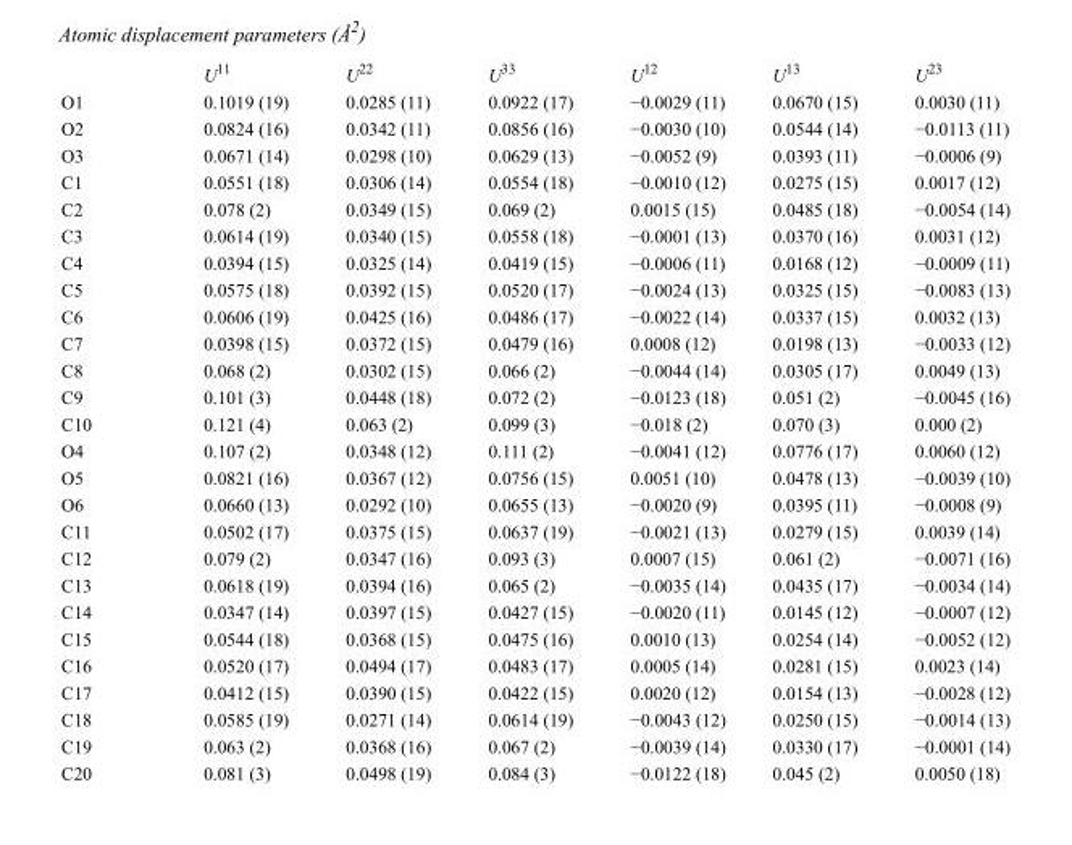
<table><thead><tr><td></td><td>U<sup>11</sup></td><td>U<sup>22</sup></td><td>U<sup>33</sup></td><td>U<sup>12</sup></td><td>U<sup>13</sup></td><td>U<sup>23</sup></td></tr></thead><tbody><tr><td>O1</td><td>0.1019 (19)</td><td>0.0285 (11)</td><td>0.0922 (17)</td><td>−0.0029 (11)</td><td>0.0670 (15)</td><td>0.0030 (11)</td></tr><tr><td>O2</td><td>0.0824 (16)</td><td>0.0342 (11)</td><td>0.0856 (16)</td><td>−0.0030 (10)</td><td>0.0544 (14)</td><td>−0.0113 (11)</td></tr><tr><td>O3</td><td>0.0671 (14)</td><td>0.0298 (10)</td><td>0.0629 (13)</td><td>−0.0052 (9)</td><td>0.0393 (11)</td><td>−0.0006 (9)</td></tr><tr><td>C1</td><td>0.0551 (18)</td><td>0.0306 (14)</td><td>0.0554 (18)</td><td>−0.0010 (12)</td><td>0.0275 (15)</td><td>0.0017 (12)</td></tr><tr><td>C2</td><td>0.078 (2)</td><td>0.0349 (15)</td><td>0.069 (2)</td><td>0.0015 (15)</td><td>0.0485 (18)</td><td>−0.0054 (14)</td></tr><tr><td>C3</td><td>0.0614 (19)</td><td>0.0340 (15)</td><td>0.0558 (18)</td><td>−0.0001 (13)</td><td>0.0370 (16)</td><td>0.0031 (12)</td></tr><tr><td>C4</td><td>0.0394 (15)</td><td>0.0325 (14)</td><td>0.0419 (15)</td><td>−0.0006 (11)</td><td>0.0168 (12)</td><td>−0.0009 (11)</td></tr><tr><td>C5</td><td>0.0575 (18)</td><td>0.0392 (15)</td><td>0.0520 (17)</td><td>−0.0024 (13)</td><td>0.0325 (15)</td><td>−0.0083 (13)</td></tr><tr><td>C6</td><td>0.0606 (19)</td><td>0.0425 (16)</td><td>0.0486 (17)</td><td>−0.0022 (14)</td><td>0.0337 (15)</td><td>0.0032 (13)</td></tr><tr><td>C7</td><td>0.0398 (15)</td><td>0.0372 (15)</td><td>0.0479 (16)</td><td>0.0008 (12)</td><td>0.0198 (13)</td><td>−0.0033 (12)</td></tr><tr><td>C8</td><td>0.068 (2)</td><td>0.0302 (15)</td><td>0.066 (2)</td><td>−0.0044 (14)</td><td>0.0305 (17)</td><td>0.0049 (13)</td></tr><tr><td>C9</td><td>0.101 (3)</td><td>0.0448 (18)</td><td>0.072 (2)</td><td>−0.0123 (18)</td><td>0.051 (2)</td><td>−0.0045 (16)</td></tr><tr><td>C10</td><td>0.121 (4)</td><td>0.063 (2)</td><td>0.099 (3)</td><td>−0.018 (2)</td><td>0.070 (3)</td><td>0.000 (2)</td></tr><tr><td>O4</td><td>0.107 (2)</td><td>0.0348 (12)</td><td>0.111 (2)</td><td>−0.0041 (12)</td><td>0.0776 (17)</td><td>0.0060 (12)</td></tr><tr><td>O5</td><td>0.0821 (16)</td><td>0.0367 (12)</td><td>0.0756 (15)</td><td>0.0051 (10)</td><td>0.0478 (13)</td><td>−0.0039 (10)</td></tr><tr><td>O6</td><td>0.0660 (13)</td><td>0.0292 (10)</td><td>0.0655 (13)</td><td>−0.0020 (9)</td><td>0.0395 (11)</td><td>−0.0008 (9)</td></tr><tr><td>C11</td><td>0.0502 (17)</td><td>0.0375 (15)</td><td>0.0637 (19)</td><td>−0.0021 (13)</td><td>0.0279 (15)</td><td>0.0039 (14)</td></tr><tr><td>C12</td><td>0.079 (2)</td><td>0.0347 (16)</td><td>0.093 (3)</td><td>0.0007 (15)</td><td>0.061 (2)</td><td>−0.0071 (16)</td></tr><tr><td>C13</td><td>0.0618 (19)</td><td>0.0394 (16)</td><td>0.065 (2)</td><td>−0.0035 (14)</td><td>0.0435 (17)</td><td>−0.0034 (14)</td></tr><tr><td>C14</td><td>0.0347 (14)</td><td>0.0397 (15)</td><td>0.0427 (15)</td><td>−0.0020 (11)</td><td>0.0145 (12)</td><td>−0.0007 (12)</td></tr><tr><td>C15</td><td>0.0544 (18)</td><td>0.0368 (15)</td><td>0.0475 (16)</td><td>0.0010 (13)</td><td>0.0254 (14)</td><td>−0.0052 (12)</td></tr><tr><td>C16</td><td>0.0520 (17)</td><td>0.0494 (17)</td><td>0.0483 (17)</td><td>0.0005 (14)</td><td>0.0281 (15)</td><td>0.0023 (14)</td></tr><tr><td>C17</td><td>0.0412 (15)</td><td>0.0390 (15)</td><td>0.0422 (15)</td><td>0.0020 (12)</td><td>0.0154 (13)</td><td>−0.0028 (12)</td></tr><tr><td>C18</td><td>0.0585 (19)</td><td>0.0271 (14)</td><td>0.0614 (19)</td><td>−0.0043 (12)</td><td>0.0250 (15)</td><td>−0.0014 (13)</td></tr><tr><td>C19</td><td>0.063 (2)</td><td>0.0368 (16)</td><td>0.067 (2)</td><td>−0.0039 (14)</td><td>0.0330 (17)</td><td>−0.0001 (14)</td></tr><tr><td>C20</td><td>0.081 (3)</td><td>0.0498 (19)</td><td>0.084 (3)</td><td>−0.0122 (18)</td><td>0.045 (2)</td><td>0.0050 (18)</td></tr></tbody></table>